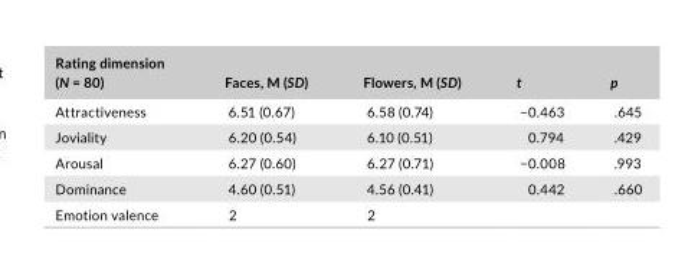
<table><thead><tr><td>Rating dimension (N = 80)</td><td>Faces, M (SD)</td><td>Flowers, M (SD)</td><td>t</td><td>p</td></tr></thead><tbody><tr><td>Attractiveness</td><td>6.51 (0.67)</td><td>6.58 (0.74)</td><td>−0.463</td><td>.645</td></tr><tr><td>Joviality</td><td>6.20 (0.54)</td><td>6.10 (0.51)</td><td>0.794</td><td>.429</td></tr><tr><td>Arousal</td><td>6.27 (0.60)</td><td>6.27 (0.71)</td><td>−0.008</td><td>.993</td></tr><tr><td>Dominance</td><td>4.60 (0.51)</td><td>4.56 (0.41)</td><td>0.442</td><td>.660</td></tr><tr><td>Emotion valence</td><td>2</td><td>2</td><td></td><td></td></tr></tbody></table>